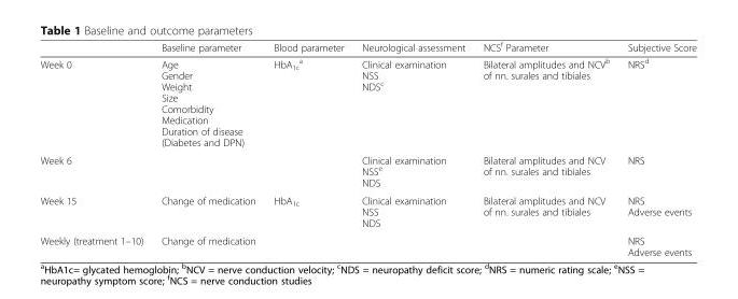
<table><thead><tr><td></td><td>Baseline parameter</td><td>Blood parameter</td><td>Neurological assessment</td><td>NCS<sup>f</sup> Parameter</td><td>Subjective Score</td></tr></thead><tbody><tr><td>Week 0</td><td>Age Gender Weight Size Comorbidity Medication Duration of disease (Diabetes and DPN)</td><td>HbA<sub>1c</sub> <sup>a</sup></td><td>Clinical examination NSS NDS<sup>c</sup></td><td>Bilateral amplitudes and NCV<sup>b</sup> of nn. surales and tibiales</td><td>NRS<sup>d</sup></td></tr><tr><td>Week 6</td><td></td><td></td><td>Clinical examination NSS<sup>e</sup> NDS</td><td>Bilateral amplitudes and NCV of nn. surales and tibiales</td><td>NRS</td></tr><tr><td>Week 15</td><td>Change of medication</td><td>HbA<sub>1c</sub></td><td>Clinical examination NSS NDS</td><td>Bilateral amplitudes and NCV of nn. surales and tibiales</td><td>NRS Adverse events</td></tr><tr><td>Weekly (treatment 1–10)</td><td>Change of medication</td><td></td><td></td><td></td><td>NRS Adverse events</td></tr></tbody></table>